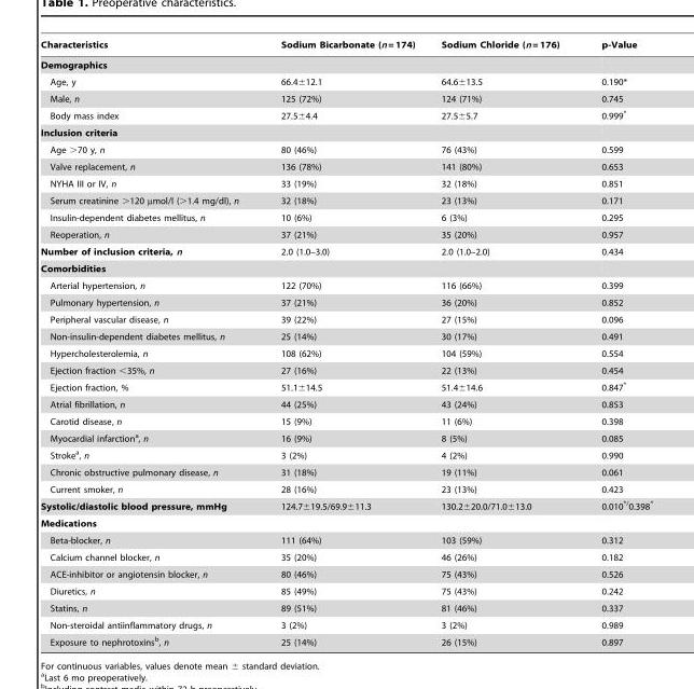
<table><thead><tr><td>Characteristics</td><td>Sodium Bicarbonate (n = 174)</td><td>Sodium Chloride (n = 176)</td><td>p-Value</td></tr></thead><tbody><tr><td colspan="4">Demographics</td></tr><tr><td>Age, y</td><td>66.4±12.1</td><td>64.6±13.5</td><td>0.190*</td></tr><tr><td>Male, n</td><td>125 (72%)</td><td>124 (71%)</td><td>0.745</td></tr><tr><td>Body mass index</td><td>27.5±4.4</td><td>27.5±5.7</td><td>0.999*</td></tr><tr><td colspan="4">Inclusion criteria</td></tr><tr><td>Age &gt;70 y, n</td><td>80 (46%)</td><td>76 (43%)</td><td>0.599</td></tr><tr><td>Valve replacement, n</td><td>136 (78%)</td><td>141 (80%)</td><td>0.653</td></tr><tr><td>NYHA III or IV, n</td><td>33 (19%)</td><td>32 (18%)</td><td>0.851</td></tr><tr><td>Serum creatinine &gt;120 µmol/l (&gt;1.4 mg/dl), n</td><td>32 (18%)</td><td>23 (13%)</td><td>0.171</td></tr><tr><td>Insulin-dependent diabetes mellitus, n</td><td>10 (6%)</td><td>6 (3%)</td><td>0.295</td></tr><tr><td>Reoperation, n</td><td>37 (21%)</td><td>35 (20%)</td><td>0.957</td></tr><tr><td>Number of inclusion criteria, n</td><td>2.0 (1.0–3.0)</td><td>2.0 (1.0–2.0)</td><td>0.434</td></tr><tr><td colspan="4">Comorbidities</td></tr><tr><td>Arterial hypertension, n</td><td>122 (70%)</td><td>116 (66%)</td><td>0.399</td></tr><tr><td>Pulmonary hypertension, n</td><td>37 (21%)</td><td>36 (20%)</td><td>0.852</td></tr><tr><td>Peripheral vascular disease, n</td><td>39 (22%)</td><td>27 (15%)</td><td>0.096</td></tr><tr><td>Non-insulin-dependent diabetes mellitus, n</td><td>25 (14%)</td><td>30 (17%)</td><td>0.491</td></tr><tr><td>Hypercholesterolemia, n</td><td>108 (62%)</td><td>104 (59%)</td><td>0.554</td></tr><tr><td>Ejection fraction &lt;35%, n</td><td>27 (16%)</td><td>22 (13%)</td><td>0.454</td></tr><tr><td>Ejection fraction, %</td><td>51.1±14.5</td><td>51.4±14.6</td><td>0.847*</td></tr><tr><td>Atrial fibrillation, n</td><td>44 (25%)</td><td>43 (24%)</td><td>0.853</td></tr><tr><td>Carotid disease, n</td><td>15 (9%)</td><td>11 (6%)</td><td>0.398</td></tr><tr><td>Myocardial infarction<sup>a</sup>, n</td><td>16 (9%)</td><td>8 (5%)</td><td>0.085</td></tr><tr><td>Stroke<sup>a</sup>, n</td><td>3 (2%)</td><td>4 (2%)</td><td>0.990</td></tr><tr><td>Chronic obstructive pulmonary disease, n</td><td>31 (18%)</td><td>19 (11%)</td><td>0.061</td></tr><tr><td>Current smoker, n</td><td>28 (16%)</td><td>23 (13%)</td><td>0.423</td></tr><tr><td>Systolic/diastolic blood pressure, mmHg</td><td>124.7±19.5/69.9±11.3</td><td>130.2±20.0/71.0±13.0</td><td>0.010*<sup>/</sup>0.398*</td></tr><tr><td colspan="4">Medications</td></tr><tr><td>Beta-blocker, n</td><td>111 (64%)</td><td>103 (59%)</td><td>0.312</td></tr><tr><td>Calcium channel blocker, n</td><td>35 (20%)</td><td>46 (26%)</td><td>0.182</td></tr><tr><td>ACE-inhibitor or angiotensin blocker, n</td><td>80 (46%)</td><td>75 (43%)</td><td>0.526</td></tr><tr><td>Diuretics, n</td><td>85 (49%)</td><td>75 (43%)</td><td>0.242</td></tr><tr><td>Statins, n</td><td>89 (51%)</td><td>81 (46%)</td><td>0.337</td></tr><tr><td>Non-steroidal antiinflammatory drugs, n</td><td>3 (2%)</td><td>3 (2%)</td><td>0.989</td></tr><tr><td>Exposure to nephrotoxins<sup>b</sup>, n</td><td>25 (14%)</td><td>26 (15%)</td><td>0.897</td></tr></tbody></table>